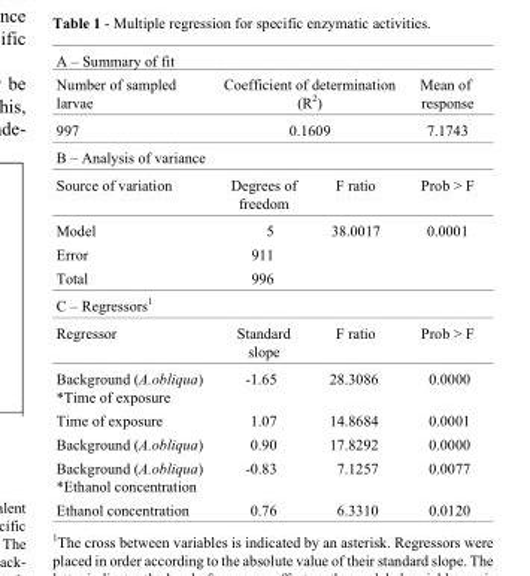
<table><thead><tr><td colspan="4">A – Summary of fit</td></tr></thead><tbody><tr><td>Number of sampled larvae</td><td colspan="2">Coefficient of determination (R<sup>2</sup>)</td><td>Mean of response</td></tr><tr><td>997</td><td colspan="2">0.1609</td><td>7.1743</td></tr><tr><td colspan="4">B – Analysis of variance</td></tr><tr><td>Source of variation</td><td>Degrees of freedom</td><td>F ratio</td><td>Prob &gt; F</td></tr><tr><td>Model</td><td>5</td><td>38.0017</td><td>0.0001</td></tr><tr><td>Error</td><td>911</td><td></td><td></td></tr><tr><td>Total</td><td>996</td><td></td><td></td></tr><tr><td colspan="4">C – Regressors<sup>1</sup></td></tr><tr><td>Regressor</td><td>Standard slope</td><td>F ratio</td><td>Prob &gt; F</td></tr><tr><td>Background (A.obliqua) *Time of exposure</td><td>-1.65</td><td>28.3086</td><td>0.0000</td></tr><tr><td>Time of exposure</td><td>1.07</td><td>14.8684</td><td>0.0001</td></tr><tr><td>Background (A.obliqua)</td><td>0.90</td><td>17.8292</td><td>0.0000</td></tr><tr><td>Background (A.obliqua) *Ethanol concentration</td><td>-0.83</td><td>7.1257</td><td>0.0077</td></tr><tr><td>Ethanol concentration</td><td>0.76</td><td>6.3310</td><td>0.0120</td></tr></tbody></table>